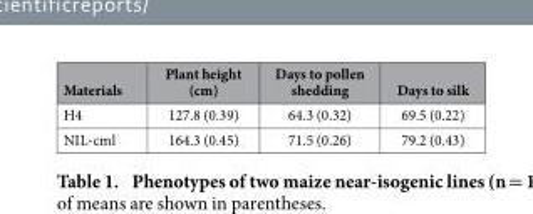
<table><thead><tr><td>Materials</td><td>Plant height (cm)</td><td>Days to pollen shedding</td><td>Days to silk</td></tr></thead><tbody><tr><td>H4</td><td>127.8 (0.39)</td><td>64.3 (0.32)</td><td>69.5 (0.22)</td></tr><tr><td>NIL-cml</td><td>164.3 (0.45)</td><td>71.5 (0.26)</td><td>79.2 (0.43)</td></tr></tbody></table>